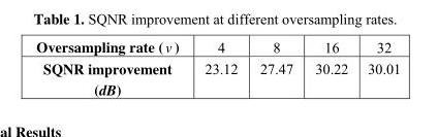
<table><tbody><tr><td>Oversampling rate (v )</td><td>4</td><td>8</td><td>16</td><td>32</td></tr><tr><td>SQNR improvement (dB)</td><td>23.12</td><td>27.47</td><td>30.22</td><td>30.01</td></tr></tbody></table>